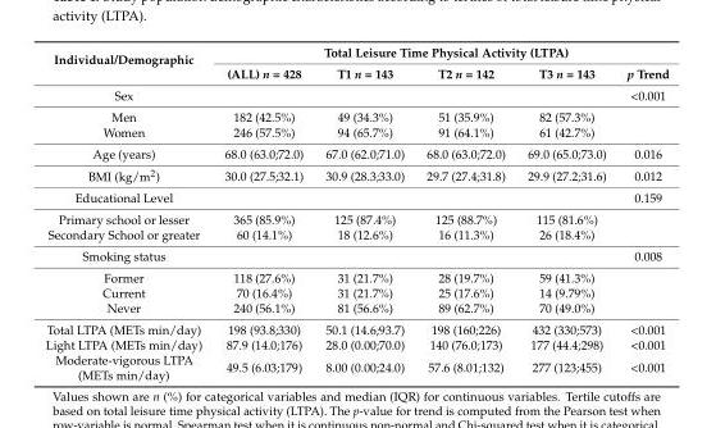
<table><thead><tr><td rowspan="2">Individual/Demographic</td><td colspan="5">Total Leisure Time Physical Activity (LTPA)</td></tr><tr><td>(ALL) n = 428</td><td>T1 n = 143</td><td>T2 n = 142</td><td>T3 n = 143</td><td>p Trend</td></tr></thead><tbody><tr><td>Sex</td><td></td><td></td><td></td><td></td><td>&lt;0.001</td></tr><tr><td>Men</td><td>182 (42.5%)</td><td>49 (34.3%)</td><td>51 (35.9%)</td><td>82 (57.3%)</td><td></td></tr><tr><td>Women</td><td>246 (57.5%)</td><td>94 (65.7%)</td><td>91 (64.1%)</td><td>61 (42.7%)</td><td></td></tr><tr><td>Age (years)</td><td>68.0 (63.0;72.0)</td><td>67.0 (62.0;71.0)</td><td>68.0 (63.0;72.0)</td><td>69.0 (65.0;73.0)</td><td>0.016</td></tr><tr><td>BMI (kg/m<sup>2</sup>)</td><td>30.0 (27.5;32.1)</td><td>30.9 (28.3;33.0)</td><td>29.7 (27.4;31.8)</td><td>29.9 (27.2;31.6)</td><td>0.012</td></tr><tr><td>Educational Level</td><td></td><td></td><td></td><td></td><td>0.159</td></tr><tr><td>Primary school or lesser</td><td>365 (85.9%)</td><td>125 (87.4%)</td><td>125 (88.7%)</td><td>115 (81.6%)</td><td></td></tr><tr><td>Secondary School or greater</td><td>60 (14.1%)</td><td>18 (12.6%)</td><td>16 (11.3%)</td><td>26 (18.4%)</td><td></td></tr><tr><td>Smoking status</td><td></td><td></td><td></td><td></td><td>0.008</td></tr><tr><td>Former</td><td>118 (27.6%)</td><td>31 (21.7%)</td><td>28 (19.7%)</td><td>59 (41.3%)</td><td></td></tr><tr><td>Current</td><td>70 (16.4%)</td><td>31 (21.7%)</td><td>25 (17.6%)</td><td>14 (9.79%)</td><td></td></tr><tr><td>Never</td><td>240 (56.1%)</td><td>81 (56.6%)</td><td>89 (62.7%)</td><td>70 (49.0%)</td><td></td></tr><tr><td>Total LTPA (METs min/day)</td><td>198 (93.8;330)</td><td>50.1 (14.6;93.7)</td><td>198 (160;226)</td><td>432 (330;573)</td><td>&lt;0.001</td></tr><tr><td>Light LTPA (METs min/day)</td><td>87.9 (14.0;176)</td><td>28.0 (0.00;70.0)</td><td>140 (76.0;173)</td><td>177 (44.4;298)</td><td>&lt;0.001</td></tr><tr><td>Moderate-vigorous LTPA (METs min/day)</td><td>49.5 (6.03;179)</td><td>8.00 (0.00;24.0)</td><td>57.6 (8.01;132)</td><td>277 (123;455)</td><td>&lt;0.001</td></tr></tbody></table>